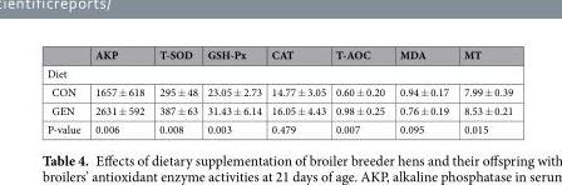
<table><thead><tr><td></td><td>AKP</td><td>T-SOD</td><td>GSH-Px</td><td>CAT</td><td>T-AOC</td><td>MDA</td><td>MT</td></tr></thead><tbody><tr><td colspan="8">Diet</td></tr><tr><td>CON</td><td>1657 ± 618</td><td>295 ± 48</td><td>23.05 ± 2.73</td><td>14.77 ± 3.05</td><td>0.60 ± 0.20</td><td>0.94 ± 0.17</td><td>7.99 ± 0.39</td></tr><tr><td>GEN</td><td>2631 ± 592</td><td>387 ± 63</td><td>31.43 ± 6.14</td><td>16.05 ± 4.43</td><td>0.98 ± 0.25</td><td>0.76 ± 0.19</td><td>8.53 ± 0.21</td></tr><tr><td>P-value</td><td>0.006</td><td>0.008</td><td>0.003</td><td>0.479</td><td>0.007</td><td>0.095</td><td>0.015</td></tr></tbody></table>